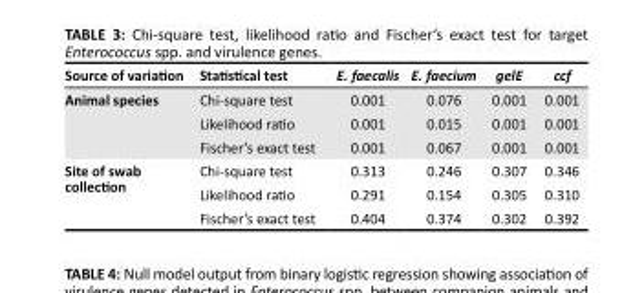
<table><thead><tr><td>Source of variation</td><td>Statistical test</td><td>E. faecalis</td><td>E. faecium</td><td>gelE</td><td>ccf</td></tr></thead><tbody><tr><td rowspan="3">Animal species</td><td>Chi-square test</td><td>0.001</td><td>0.076</td><td>0.001</td><td>0.001</td></tr><tr><td>Likelihood ratio</td><td>0.001</td><td>0.015</td><td>0.001</td><td>0.001</td></tr><tr><td>Fischer’s exact test</td><td>0.001</td><td>0.067</td><td>0.001</td><td>0.001</td></tr><tr><td rowspan="3">Site of swab collection</td><td>Chi-square test</td><td>0.313</td><td>0.246</td><td>0.307</td><td>0.346</td></tr><tr><td>Likelihood ratio</td><td>0.291</td><td>0.154</td><td>0.305</td><td>0.310</td></tr><tr><td>Fischer’s exact test</td><td>0.404</td><td>0.374</td><td>0.302</td><td>0.392</td></tr></tbody></table>